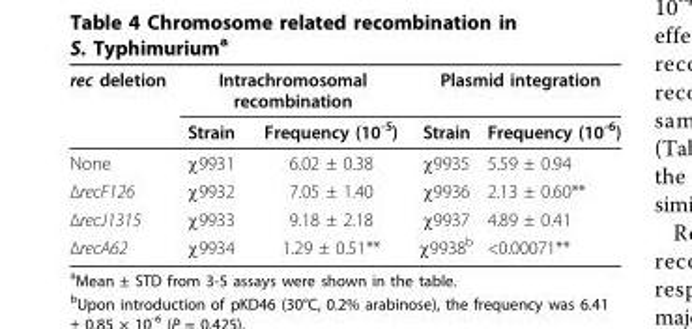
<table><thead><tr><td rowspan="2">rec deletion</td><td colspan="2">Intrachromosomal recombination</td><td colspan="2">Plasmid integration</td></tr><tr><td>Strain</td><td>Frequency (10<sup>-5</sup>)</td><td>Strain</td><td>Frequency (10<sup>-6</sup>)</td></tr></thead><tbody><tr><td>None</td><td>χ9931</td><td>6.02 ± 0.38</td><td>χ9935</td><td>5.59 ± 0.94</td></tr><tr><td>ΔrecF126</td><td>χ9932</td><td>7.05 ± 1.40</td><td>χ9936</td><td>2.13 ± 0.60**</td></tr><tr><td>ΔrecJ1315</td><td>χ9933</td><td>9.18 ± 2.18</td><td>χ9937</td><td>4.89 ± 0.41</td></tr><tr><td>ΔrecA62</td><td>χ9934</td><td>1.29 ± 0.51**</td><td>χ9938<sup>b</sup></td><td>&lt;0.00071**</td></tr></tbody></table>